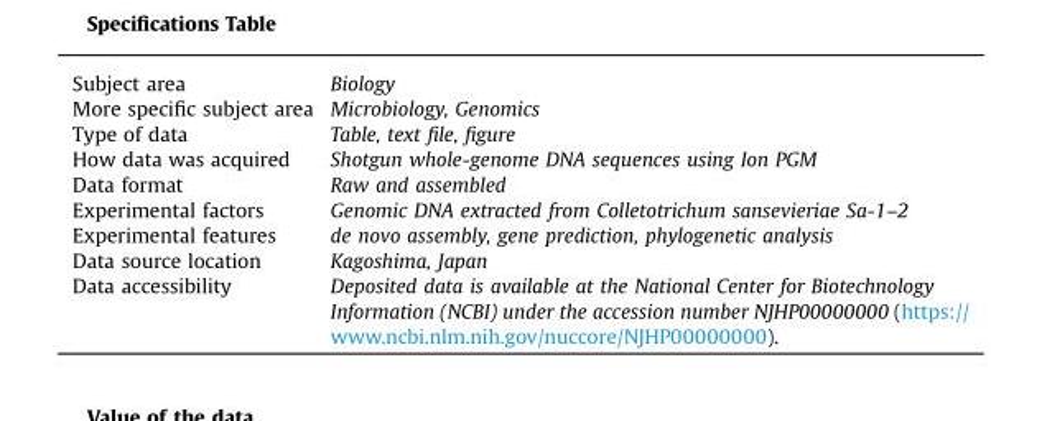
<table><tbody><tr><td>Subject area</td><td>Biology</td></tr><tr><td>More specific subject area</td><td>Microbiology, Genomics</td></tr><tr><td>Type of data</td><td>Table, text file, figure</td></tr><tr><td>How data was acquired</td><td>Shotgun whole-genome DNA sequences using Ion PGM</td></tr><tr><td>Data format</td><td>Raw and assembled</td></tr><tr><td>Experimental factors</td><td>Genomic DNA extracted from Colletotrichum sansevieriae Sa-1–2</td></tr><tr><td>Experimental features</td><td>de novo assembly, gene prediction, phylogenetic analysis</td></tr><tr><td>Data source location</td><td>Kagoshima, Japan</td></tr><tr><td rowspan="2">Data accessibility</td><td>Deposited data is available at the National Center for Biotechnology</td></tr><tr><td>Information (NCBI) under the accession number NJHP00000000 (https:// www.ncbi.nlm.nih.gov/nuccore/NJHP00000000).</td></tr></tbody></table>